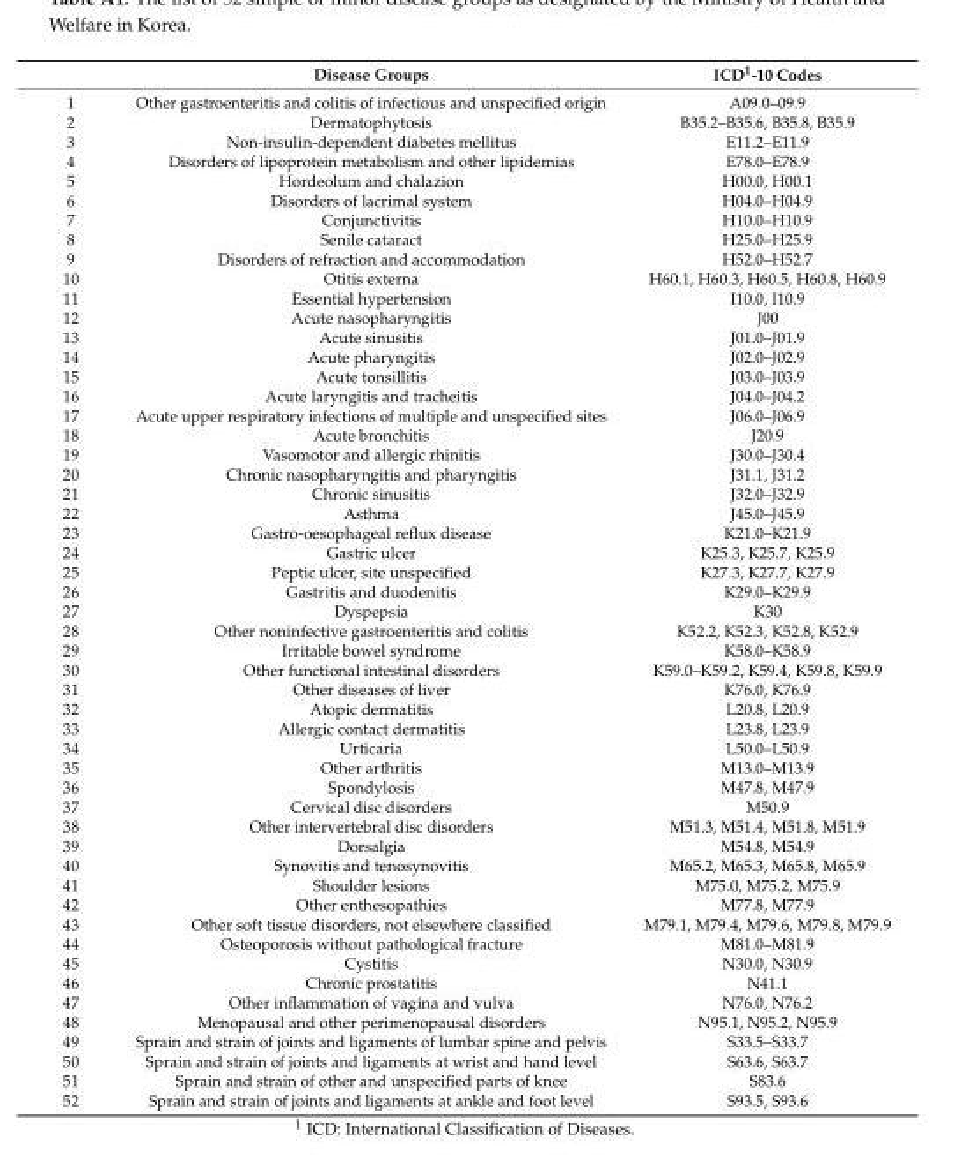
<table><thead><tr><td></td><td>Disease Groups</td><td>ICD<sup>1</sup>-10 Codes</td></tr></thead><tbody><tr><td>1</td><td>Other gastroenteritis and colitis of infectious and unspecified origin</td><td>A09.0–09.9</td></tr><tr><td>2</td><td>Dermatophytosis</td><td>B35.2–B35.6, B35.8, B35.9</td></tr><tr><td>3</td><td>Non-insulin-dependent diabetes mellitus</td><td>E11.2–E11.9</td></tr><tr><td>4</td><td>Disorders of lipoprotein metabolism and other lipidemias</td><td>E78.0–E78.9</td></tr><tr><td>5</td><td>Hordeolum and chalazion</td><td>H00.0, H00.1</td></tr><tr><td>6</td><td>Disorders of lacrimal system</td><td>H04.0–H04.9</td></tr><tr><td>7</td><td>Conjunctivitis</td><td>H10.0–H10.9</td></tr><tr><td>8</td><td>Senile cataract</td><td>H25.0–H25.9</td></tr><tr><td>9</td><td>Disorders of refraction and accommodation</td><td>H52.0–H52.7</td></tr><tr><td>10</td><td>Otitis externa</td><td>H60.1, H60.3, H60.5, H60.8, H60.9</td></tr><tr><td>11</td><td>Essential hypertension</td><td>I10.0, I10.9</td></tr><tr><td>12</td><td>Acute nasopharyngitis</td><td>J00</td></tr><tr><td>13</td><td>Acute sinusitis</td><td>J01.0–J01.9</td></tr><tr><td>14</td><td>Acute pharyngitis</td><td>J02.0–J02.9</td></tr><tr><td>15</td><td>Acute tonsillitis</td><td>J03.0–J03.9</td></tr><tr><td>16</td><td>Acute laryngitis and tracheitis</td><td>J04.0–J04.2</td></tr><tr><td>17</td><td>Acute upper respiratory infections of multiple and unspecified sites</td><td>J06.0–J06.9</td></tr><tr><td>18</td><td>Acute bronchitis</td><td>J20.9</td></tr><tr><td>19</td><td>Vasomotor and allergic rhinitis</td><td>J30.0–J30.4</td></tr><tr><td>20</td><td>Chronic nasopharyngitis and pharyngitis</td><td>J31.1, J31.2</td></tr><tr><td>21</td><td>Chronic sinusitis</td><td>J32.0–J32.9</td></tr><tr><td>22</td><td>Asthma</td><td>J45.0–J45.9</td></tr><tr><td>23</td><td>Gastro-oesophageal reflux disease</td><td>K21.0–K21.9</td></tr><tr><td>24</td><td>Gastric ulcer</td><td>K25.3, K25.7, K25.9</td></tr><tr><td>25</td><td>Peptic ulcer, site unspecified</td><td>K27.3, K27.7, K27.9</td></tr><tr><td>26</td><td>Gastritis and duodenitis</td><td>K29.0–K29.9</td></tr><tr><td>27</td><td>Dyspepsia</td><td>K30</td></tr><tr><td>28</td><td>Other noninfective gastroenteritis and colitis</td><td>K52.2, K52.3, K52.8, K52.9</td></tr><tr><td>29</td><td>Irritable bowel syndrome</td><td>K58.0–K58.9</td></tr><tr><td>30</td><td>Other functional intestinal disorders</td><td>K59.0–K59.2, K59.4, K59.8, K59.9</td></tr><tr><td>31</td><td>Other diseases of liver</td><td>K76.0, K76.9</td></tr><tr><td>32</td><td>Atopic dermatitis</td><td>L20.8, L20.9</td></tr><tr><td>33</td><td>Allergic contact dermatitis</td><td>L23.8, L23.9</td></tr><tr><td>34</td><td>Urticaria</td><td>L50.0–L50.9</td></tr><tr><td>35</td><td>Other arthritis</td><td>M13.0–M13.9</td></tr><tr><td>36</td><td>Spondylosis</td><td>M47.8, M47.9</td></tr><tr><td>37</td><td>Cervical disc disorders</td><td>M50.9</td></tr><tr><td>38</td><td>Other intervertebral disc disorders</td><td>M51.3, M51.4, M51.8, M51.9</td></tr><tr><td>39</td><td>Dorsalgia</td><td>M54.8, M54.9</td></tr><tr><td>40</td><td>Synovitis and tenosynovitis</td><td>M65.2, M65.3, M65.8, M65.9</td></tr><tr><td>41</td><td>Shoulder lesions</td><td>M75.0, M75.2, M75.9</td></tr><tr><td>42</td><td>Other enthesopathies</td><td>M77.8, M77.9</td></tr><tr><td>43</td><td>Other soft tissue disorders, not elsewhere classified</td><td>M79.1, M79.4, M79.6, M79.8, M79.9</td></tr><tr><td>44</td><td>Osteoporosis without pathological fracture</td><td>M81.0–M81.9</td></tr><tr><td>45</td><td>Cystitis</td><td>N30.0, N30.9</td></tr><tr><td>46</td><td>Chronic prostatitis</td><td>N41.1</td></tr><tr><td>47</td><td>Other inflammation of vagina and vulva</td><td>N76.0, N76.2</td></tr><tr><td>48</td><td>Menopausal and other perimenopausal disorders</td><td>N95.1, N95.2, N95.9</td></tr><tr><td>49</td><td>Sprain and strain of joints and ligaments of lumbar spine and pelvis</td><td>S33.5–S33.7</td></tr><tr><td>50</td><td>Sprain and strain of joints and ligaments at wrist and hand level</td><td>S63.6, S63.7</td></tr><tr><td>51</td><td>Sprain and strain of other and unspecified parts of knee</td><td>S83.6</td></tr><tr><td>52</td><td>Sprain and strain of joints and ligaments at ankle and foot level</td><td>S93.5, S93.6</td></tr></tbody></table>